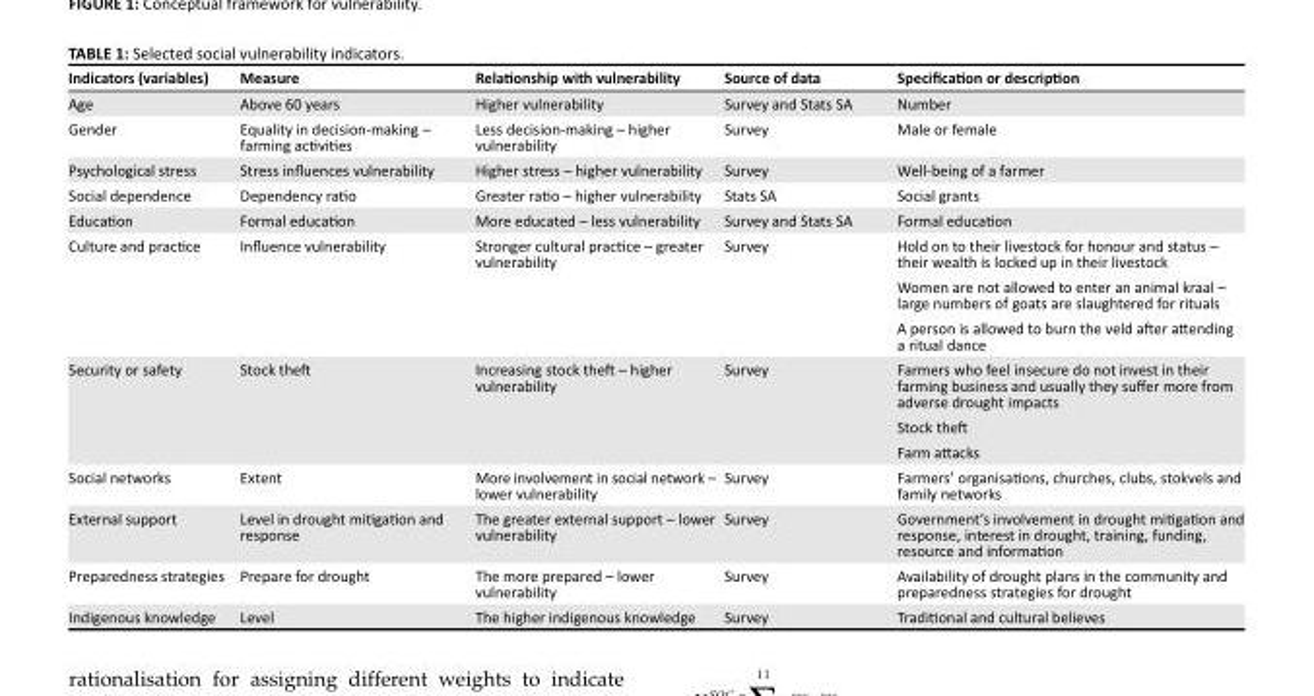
<table><thead><tr><td>Indicators (variables)</td><td>Measure</td><td>Relationship with vulnerability</td><td>Source of data</td><td>Specification or description</td></tr></thead><tbody><tr><td>Age</td><td>Above 60 years</td><td>Higher vulnerability</td><td>Survey and Stats SA</td><td>Number</td></tr><tr><td>Gender</td><td>Equality in decision-making – farming activities</td><td>Less decision-making – higher vulnerability</td><td>Survey</td><td>Male or female</td></tr><tr><td>Psychological stress</td><td>Stress influences vulnerability</td><td>Higher stress – higher vulnerability</td><td>Survey</td><td>Well-being of a farmer</td></tr><tr><td>Social dependence</td><td>Dependency ratio</td><td>Greater ratio – higher vulnerability</td><td>Stats SA</td><td>Social grants</td></tr><tr><td>Education</td><td>Formal education</td><td>More educated – less vulnerability</td><td>Survey and Stats SA</td><td>Formal education</td></tr><tr><td>Culture and practice</td><td>Influence vulnerability</td><td>Stronger cultural practice – greater vulnerability</td><td>Survey</td><td>Hold on to their livestock for honour and status – their wealth is locked up in their livestock Women are not allowed to enter an animal kraal – large numbers of goats are slaughtered for rituals A person is allowed to burn the veld after attending a ritual dance</td></tr><tr><td>Security or safety</td><td>Stock theft</td><td>Increasing stock theft – higher vulnerability</td><td>Survey</td><td>Farmers who feel insecure do not invest in their farming business and usually they suffer more from adverse drought impacts Stock theft Farm attacks</td></tr><tr><td>Social networks</td><td>Extent</td><td>More involvement in social network – lower vulnerability</td><td>Survey</td><td>Farmers’ organisations, churches, clubs, stokvels and family networks</td></tr><tr><td>External support</td><td>Level in drought mitigation and response</td><td>The greater external support – lower vulnerability</td><td>Survey</td><td>Government’s involvement in drought mitigation and response, interest in drought, training, funding, resource and information</td></tr><tr><td>Preparedness strategies</td><td>Prepare for drought</td><td>The more prepared – lower vulnerability</td><td>Survey</td><td>Availability of drought plans in the community and preparedness strategies for drought</td></tr><tr><td>Indigenous knowledge</td><td>Level</td><td>The higher indigenous knowledge</td><td>Survey</td><td>Traditional and cultural believes</td></tr></tbody></table>